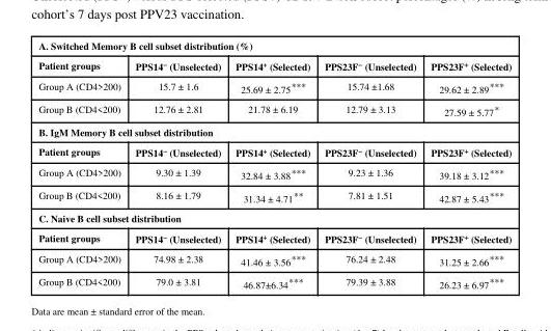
<table><tbody><tr><td colspan="5">A. Switched Memory B cell subset distribution (%)</td></tr><tr><td>Patient groups</td><td>PPS14<sup>−</sup> (Unselected)</td><td>PPS14<sup>+</sup> (Selected)</td><td>PPS23F<sup>−</sup> (Unselected)</td><td>PPS23F<sup>+</sup> (Selected)</td></tr><tr><td>Group A (CD4&gt;200)</td><td>15.7 ± 1.6</td><td>25.69 ± 2.75***</td><td>15.74 ±1.68</td><td>29.62 ± 2.89***</td></tr><tr><td>Group B (CD4&lt;200)</td><td>12.76 ± 2.81</td><td>21.78 ± 6.19</td><td>12.79 ± 3.13</td><td>27.59 ± 5.77*</td></tr><tr><td colspan="5">B. IgM Memory B cell subset distribution</td></tr><tr><td>Patient groups</td><td>PPS14<sup>−</sup> (Unselected)</td><td>PPS14<sup>+</sup> (Selected)</td><td>PPS23F<sup>−</sup> (Unselected)</td><td>PPS23F<sup>+</sup> (Selected)</td></tr><tr><td>Group A (CD4&gt;200)</td><td>9.30 ± 1.39</td><td>32.84 ± 3.88***</td><td>9.23 ± 1.36</td><td>39.18 ± 3.12***</td></tr><tr><td>Group B (CD4&lt;200)</td><td>8.16 ± 1.79</td><td>31.34 ± 4.71**</td><td>7.81 ± 1.51</td><td>42.87 ± 5.43***</td></tr><tr><td colspan="5">C. Naive B cell subset distribution</td></tr><tr><td>Patient groups</td><td>PPS14<sup>−</sup> (Unselected)</td><td>PPS14<sup>+</sup> (Selected)</td><td>PPS23F<sup>−</sup> (Unselected)</td><td>PPS23F<sup>+</sup> (Selected)</td></tr><tr><td>Group A (CD4&gt;200)</td><td>74.98 ± 2.38</td><td>41.46 ± 3.56***</td><td>76.24 ± 2.48</td><td>31.25 ± 2.66***</td></tr><tr><td>Group B (CD4&lt;200)</td><td>79.0 ± 3.81</td><td>46.87±6.34***</td><td>79.39 ± 3.88</td><td>26.23 ± 6.97***</td></tr></tbody></table>